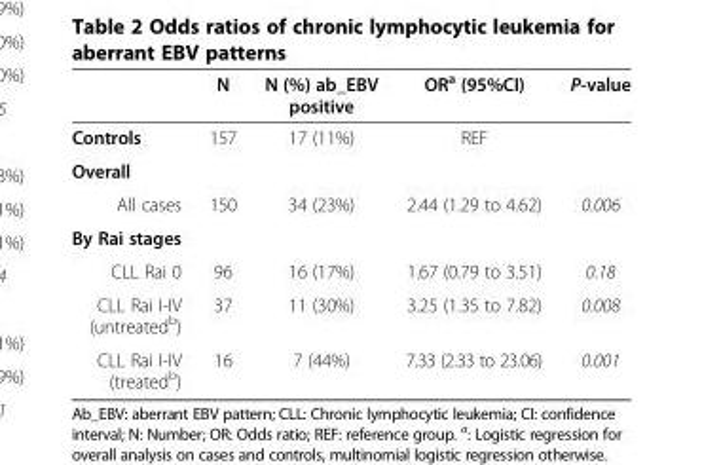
<table><thead><tr><td></td><td>N</td><td>N (%) ab_EBV positive</td><td>OR<sup>a</sup> (95%CI)</td><td>P-value</td></tr></thead><tbody><tr><td>Controls</td><td>157</td><td>17 (11%)</td><td>REF</td><td></td></tr><tr><td colspan="5">Overall</td></tr><tr><td>All cases</td><td>150</td><td>34 (23%)</td><td>2.44 (1.29 to 4.62)</td><td>0.006</td></tr><tr><td colspan="5">By Rai stages</td></tr><tr><td>CLL Rai 0</td><td>96</td><td>16 (17%)</td><td>1.67 (0.79 to 3.51)</td><td>0.18</td></tr><tr><td>CLL Rai I-IV (untreated<sup>b</sup>)</td><td>37</td><td>11 (30%)</td><td>3.25 (1.35 to 7.82)</td><td>0.008</td></tr><tr><td>CLL Rai I-IV (treated<sup>b</sup>)</td><td>16</td><td>7 (44%)</td><td>7.33 (2.33 to 23.06)</td><td>0.001</td></tr></tbody></table>